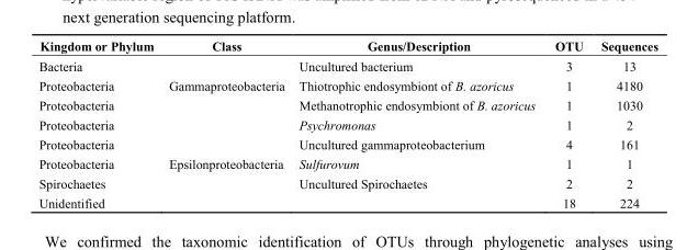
<table><thead><tr><td>Kingdom or Phylum</td><td>Class</td><td>Genus/Description</td><td>OTU</td><td>Sequences</td></tr></thead><tbody><tr><td>Bacteria</td><td></td><td>Uncultured bacterium</td><td>3</td><td>13</td></tr><tr><td>Proteobacteria</td><td rowspan="4">Gammaproteobacteria</td><td>Thiotrophic endosymbiont of B. azoricus</td><td>1</td><td>4180</td></tr><tr><td>Proteobacteria</td><td>Methanotrophic endosymbiont of B. azoricus</td><td>1</td><td>1030</td></tr><tr><td>Proteobacteria</td><td>Psychromonas</td><td>1</td><td>2</td></tr><tr><td>Proteobacteria</td><td>Uncultured gammaproteobacterium</td><td>4</td><td>161</td></tr><tr><td>Proteobacteria</td><td>Epsilonproteobacteria</td><td>Sulfurovum</td><td>1</td><td>1</td></tr><tr><td>Spirochaetes</td><td></td><td>Uncultured Spirochaetes</td><td>2</td><td>2</td></tr><tr><td>Unidentified</td><td></td><td></td><td>18</td><td>224</td></tr></tbody></table>